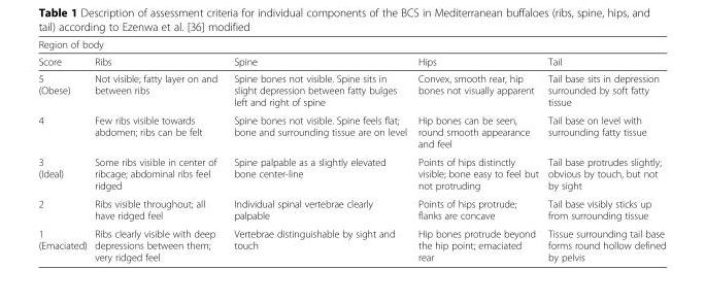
<table><thead><tr><td colspan="5">Region of body</td></tr><tr><td>Score</td><td>Ribs</td><td>Spine</td><td>Hips</td><td>Tail</td></tr></thead><tbody><tr><td>5 (Obese)</td><td>Not visible; fatty layer on and between ribs</td><td>Spine bones not visible. Spine sits in slight depression between fatty bulges left and right of spine</td><td>Convex, smooth rear, hip bones not visually apparent</td><td>Tail base sits in depression surrounded by soft fatty tissue</td></tr><tr><td>4</td><td>Few ribs visible towards abdomen; ribs can be felt</td><td>Spine bones not visible. Spine feels flat; bone and surrounding tissue are on level</td><td>Hip bones can be seen, round smooth appearance and feel</td><td>Tail base on level with surrounding fatty tissue</td></tr><tr><td>3 (Ideal)</td><td>Some ribs visible in center of ribcage; abdominal ribs feel ridged</td><td>Spine palpable as a slightly elevated bone center-line</td><td>Points of hips distinctly visible; bone easy to feel but not protruding</td><td>Tail base protrudes slightly; obvious by touch, but not by sight</td></tr><tr><td>2</td><td>Ribs visible throughout; all have ridged feel</td><td>Individual spinal vertebrae clearly palpable</td><td>Points of hips protrude; flanks are concave</td><td>Tail base visibly sticks up from surrounding tissue</td></tr><tr><td>1 (Emaciated)</td><td>Ribs clearly visible with deep depressions between them; very ridged feel</td><td>Vertebrae distinguishable by sight and touch</td><td>Hip bones protrude beyond the hip point; emaciated rear</td><td>Tissue surrounding tail base forms round hollow defined by pelvis</td></tr></tbody></table>